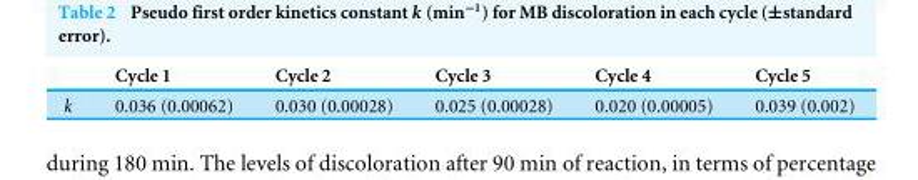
<table><thead><tr><td></td><td>Cycle 1</td><td>Cycle 2</td><td>Cycle 3</td><td>Cycle 4</td><td>Cycle 5</td></tr></thead><tbody><tr><td>k</td><td>0.036 (0.00062)</td><td>0.030 (0.00028)</td><td>0.025 (0.00028)</td><td>0.020 (0.00005)</td><td>0.039 (0.002)</td></tr></tbody></table>